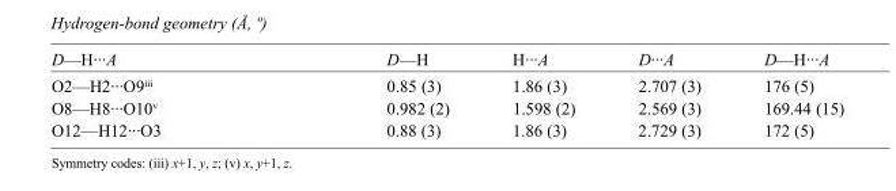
<table><tbody><tr><td>D—H···A</td><td>D—H</td><td>H···A</td><td>D···A</td><td>D—H···A</td></tr><tr><td>O2—H2···O9<sup>iii</sup></td><td>0.85 (3)</td><td>1.86 (3)</td><td>2.707 (3)</td><td>176 (5)</td></tr><tr><td>O8—H8···O10<sup>v</sup></td><td>0.982 (2)</td><td>1.598 (2)</td><td>2.569 (3)</td><td>169.44 (15)</td></tr><tr><td>O12—H12···O3</td><td>0.88 (3)</td><td>1.86 (3)</td><td>2.729 (3)</td><td>172 (5)</td></tr></tbody></table>